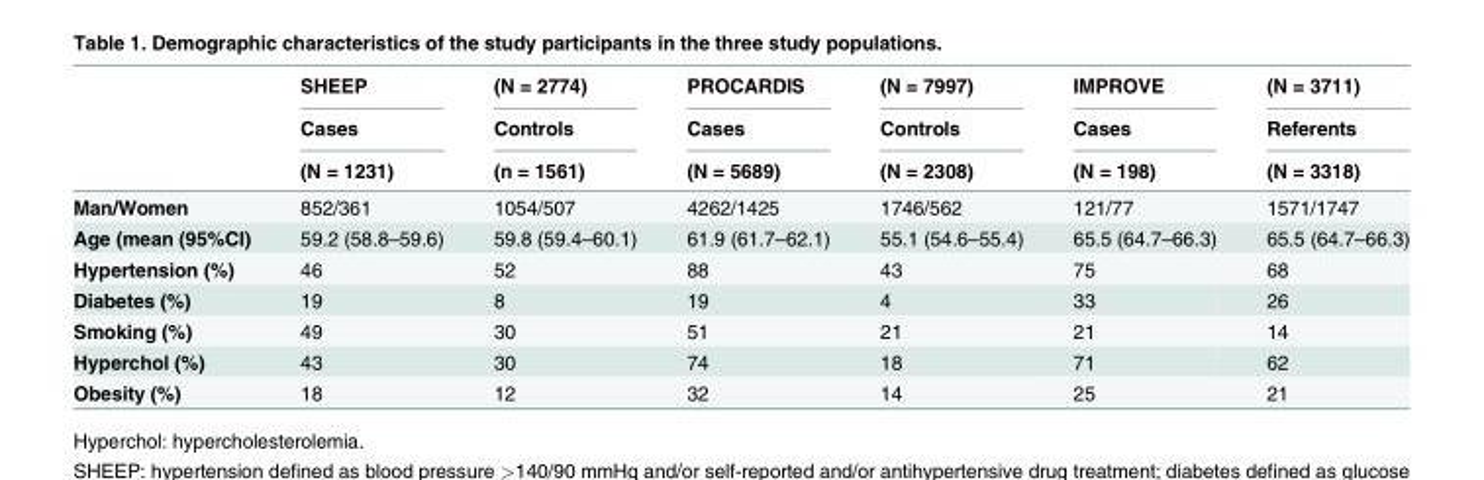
<table><thead><tr><td rowspan="3"></td><td rowspan="3">SHEEP Cases (N = 1231)</td><td rowspan="3">(N = 2774) Controls (n = 1561)</td><td rowspan="3">PROCARDIS Cases (N = 5689)</td><td rowspan="3">(N = 7997) Controls (N = 2308)</td><td rowspan="3">IMPROVE Cases (N = 198)</td><td rowspan="3">(N = 3711) Referents (N = 3318)</td></tr><tr></tr><tr></tr></thead><tbody><tr><td>Man/Women</td><td>852/361</td><td>1054/507</td><td>4262/1425</td><td>1746/562</td><td>121/77</td><td>1571/1747</td></tr><tr><td>Age (mean (95%CI)</td><td>59.2 (58.8–59.6)</td><td>59.8 (59.4–60.1)</td><td>61.9 (61.7–62.1)</td><td>55.1 (54.6–55.4)</td><td>65.5 (64.7–66.3)</td><td>65.5 (64.7–66.3)</td></tr><tr><td>Hypertension (%)</td><td>46</td><td>52</td><td>88</td><td>43</td><td>75</td><td>68</td></tr><tr><td>Diabetes (%)</td><td>19</td><td>8</td><td>19</td><td>4</td><td>33</td><td>26</td></tr><tr><td>Smoking (%)</td><td>49</td><td>30</td><td>51</td><td>21</td><td>21</td><td>14</td></tr><tr><td>Hyperchol (%)</td><td>43</td><td>30</td><td>74</td><td>18</td><td>71</td><td>62</td></tr><tr><td>Obesity (%)</td><td>18</td><td>12</td><td>32</td><td>14</td><td>25</td><td>21</td></tr></tbody></table>